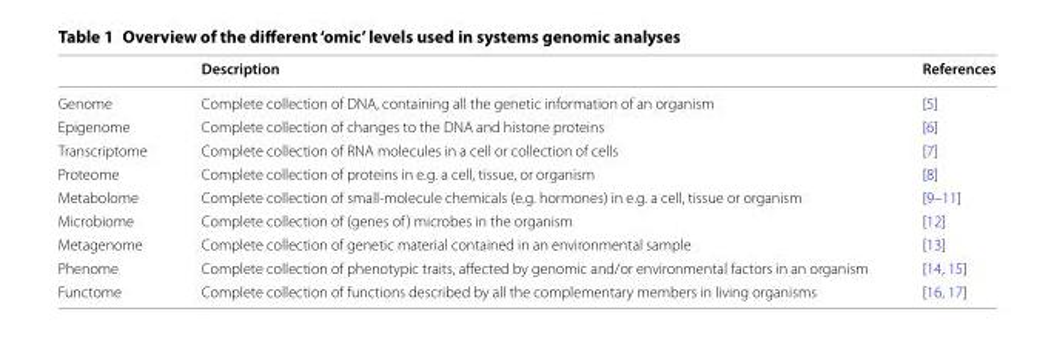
<table><thead><tr><td></td><td>Description</td><td>References</td></tr></thead><tbody><tr><td>Genome</td><td>Complete collection of DNA, containing all the genetic information of an organism</td><td>[5]</td></tr><tr><td>Epigenome</td><td>Complete collection of changes to the DNA and histone proteins</td><td>[6]</td></tr><tr><td>Transcriptome</td><td>Complete collection of RNA molecules in a cell or collection of cells</td><td>[7]</td></tr><tr><td>Proteome</td><td>Complete collection of proteins in e.g. a cell, tissue, or organism</td><td>[8]</td></tr><tr><td>Metabolome</td><td>Complete collection of small-molecule chemicals (e.g. hormones) in e.g. a cell, tissue or organism</td><td>[9–11]</td></tr><tr><td>Microbiome</td><td>Complete collection of (genes of) microbes in the organism</td><td>[12]</td></tr><tr><td>Metagenome</td><td>Complete collection of genetic material contained in an environmental sample</td><td>[13]</td></tr><tr><td>Phenome</td><td>Complete collection of phenotypic traits, affected by genomic and/or environmental factors in an organism</td><td>[14, 15]</td></tr><tr><td>Functome</td><td>Complete collection of functions described by all the complementary members in living organisms</td><td>[16, 17]</td></tr></tbody></table>